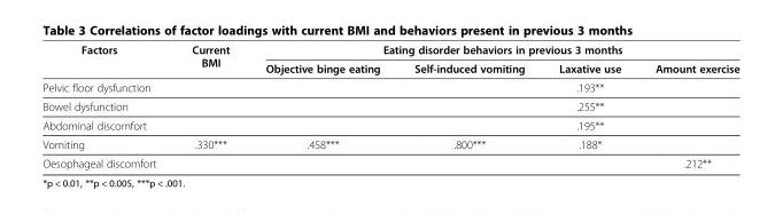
<table><thead><tr><td rowspan="2">Factors</td><td rowspan="2">Current BMI</td><td colspan="4">Eating disorder behaviors in previous 3 months</td></tr><tr><td>Objective binge eating</td><td>Self-induced vomiting</td><td>Laxative use</td><td>Amount exercise</td></tr></thead><tbody><tr><td>Pelvic floor dysfunction</td><td></td><td></td><td></td><td>.193**</td><td></td></tr><tr><td>Bowel dysfunction</td><td></td><td></td><td></td><td>.255**</td><td></td></tr><tr><td>Abdominal discomfort</td><td></td><td></td><td></td><td>.195**</td><td></td></tr><tr><td>Vomiting</td><td>.330***</td><td>.458***</td><td>.800***</td><td>.188*</td><td></td></tr><tr><td>Oesophageal discomfort</td><td></td><td></td><td></td><td></td><td>.212**</td></tr></tbody></table>